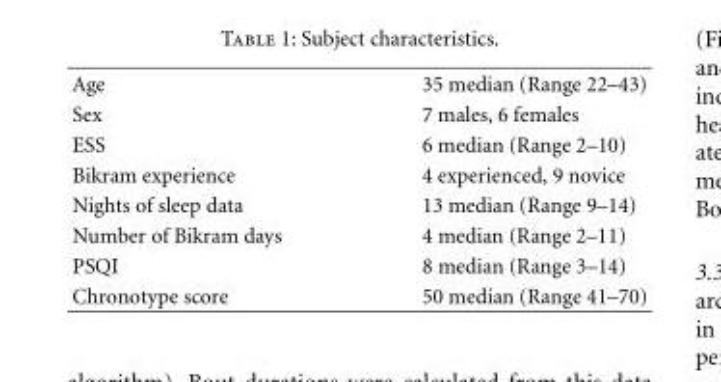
<table><tbody><tr><td>Age</td><td>35 median (Range 22–43)</td></tr><tr><td>Sex</td><td>7 males, 6 females</td></tr><tr><td>ESS</td><td>6 median (Range 2–10)</td></tr><tr><td>Bikram experience</td><td>4 experienced, 9 novice</td></tr><tr><td>Nights of sleep data</td><td>13 median (Range 9–14)</td></tr><tr><td>Number of Bikram days</td><td>4 median (Range 2–11)</td></tr><tr><td>PSQI</td><td>8 median (Range 3–14)</td></tr><tr><td>Chronotype score</td><td>50 median (Range 41–70)</td></tr></tbody></table>